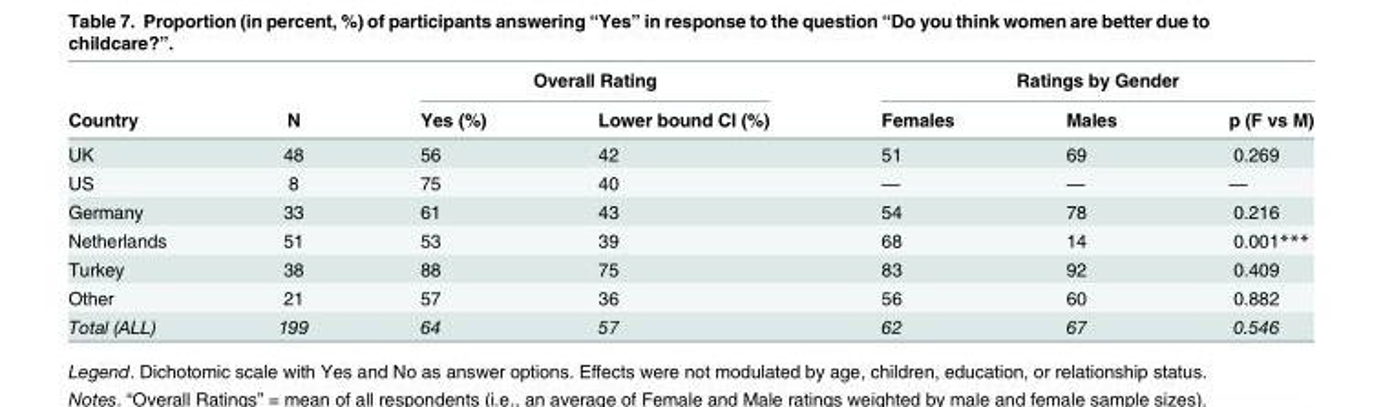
<table><thead><tr><td rowspan="2">Country</td><td rowspan="2">N</td><td colspan="2">Overall Rating</td><td colspan="3">Ratings by Gender</td></tr><tr><td>Yes (%)</td><td>Lower bound CI (%)</td><td>Females</td><td>Males</td><td>p (F vs M)</td></tr></thead><tbody><tr><td>UK</td><td>48</td><td>56</td><td>42</td><td>51</td><td>69</td><td>0.269</td></tr><tr><td>US</td><td>8</td><td>75</td><td>40</td><td>—</td><td>—</td><td>—</td></tr><tr><td>Germany</td><td>33</td><td>61</td><td>43</td><td>54</td><td>78</td><td>0.216</td></tr><tr><td>Netherlands</td><td>51</td><td>53</td><td>39</td><td>68</td><td>14</td><td>0.001***</td></tr><tr><td>Turkey</td><td>38</td><td>88</td><td>75</td><td>83</td><td>92</td><td>0.409</td></tr><tr><td>Other</td><td>21</td><td>57</td><td>36</td><td>56</td><td>60</td><td>0.882</td></tr><tr><td>Total (ALL)</td><td>199</td><td>64</td><td>57</td><td>62</td><td>67</td><td>0.546</td></tr></tbody></table>